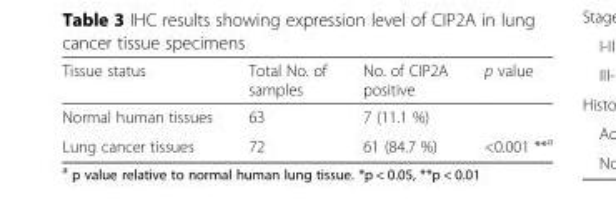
<table><thead><tr><td>Tissue status</td><td>Total No. of samples</td><td>No. of CIP2A positive</td><td>p value</td></tr></thead><tbody><tr><td>Normal human tissues</td><td>63</td><td>7 (11.1 %)</td><td></td></tr><tr><td>Lung cancer tissues</td><td>72</td><td>61 (84.7 %)</td><td>&lt;0.001 **<sup>a</sup></td></tr></tbody></table>